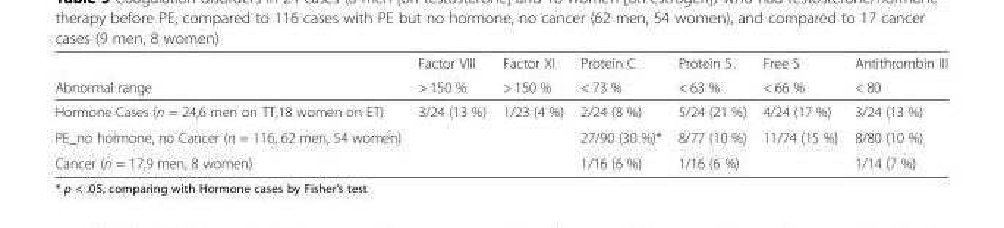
<table><thead><tr><td rowspan="2">Abnormal range</td><td rowspan="2">Factor VIII &gt; 150 %</td><td rowspan="2">Factor XI &gt; 150 %</td><td rowspan="2">Protein C &lt; 73 %</td><td rowspan="2">Protein S &lt; 63 %</td><td rowspan="2">Free S &lt; 66 %</td><td rowspan="2">Antithrombin III &lt; 80</td></tr><tr></tr></thead><tbody><tr><td>Hormone Cases (n = 24,6 men on TT,18 women on ET)</td><td>3/24 (13 %)</td><td>1/23 (4 %)</td><td>2/24 (8 %)</td><td>5/24 (21 %)</td><td>4/24 (17 %)</td><td>3/24 (13 %)</td></tr><tr><td>PE_no hormone, no Cancer (n = 116, 62 men, 54 women)</td><td></td><td></td><td>27/90 (30 %)*</td><td>8/77 (10 %)</td><td>11/74 (15 %)</td><td>8/80 (10 %)</td></tr><tr><td>Cancer (n = 17,9 men, 8 women)</td><td></td><td></td><td>1/16 (6 %)</td><td>1/16 (6 %)</td><td></td><td>1/14 (7 %)</td></tr></tbody></table>